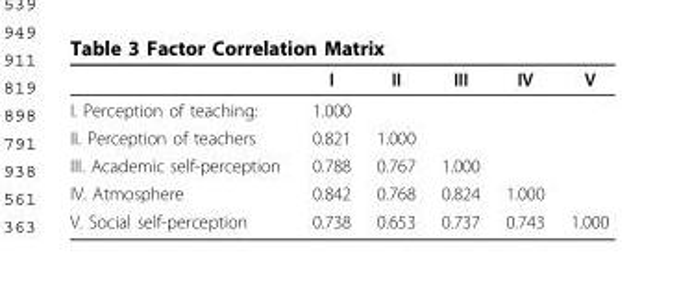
<table><thead><tr><td></td><td>I</td><td>II</td><td>III</td><td>IV</td><td>V</td></tr></thead><tbody><tr><td>I. Perception of teaching:</td><td>1.000</td><td></td><td></td><td></td><td></td></tr><tr><td>II. Perception of teachers</td><td>0.821</td><td>1.000</td><td></td><td></td><td></td></tr><tr><td>III. Academic self-perception</td><td>0.788</td><td>0.767</td><td>1.000</td><td></td><td></td></tr><tr><td>IV. Atmosphere</td><td>0.842</td><td>0.768</td><td>0.824</td><td>1.000</td><td></td></tr><tr><td>V. Social self-perception</td><td>0.738</td><td>0.653</td><td>0.737</td><td>0.743</td><td>1.000</td></tr></tbody></table>